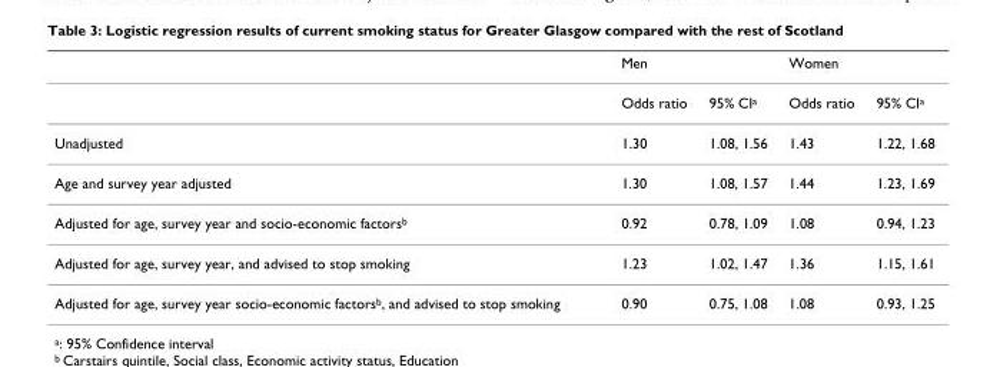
<table><thead><tr><td></td><td>Men</td><td></td><td>Women</td><td></td></tr></thead><tbody><tr><td></td><td>Odds ratio</td><td>95% CI<sup>a</sup></td><td>Odds ratio</td><td>95% CI<sup>a</sup></td></tr><tr><td>Unadjusted</td><td>1.30</td><td>1.08, 1.56</td><td>1.43</td><td>1.22, 1.68</td></tr><tr><td>Age and survey year adjusted</td><td>1.30</td><td>1.08, 1.57</td><td>1.44</td><td>1.23, 1.69</td></tr><tr><td>Adjusted for age, survey year and socio-economic factors<sup>b</sup></td><td>0.92</td><td>0.78, 1.09</td><td>1.08</td><td>0.94, 1.23</td></tr><tr><td>Adjusted for age, survey year, and advised to stop smoking</td><td>1.23</td><td>1.02, 1.47</td><td>1.36</td><td>1.15, 1.61</td></tr><tr><td>Adjusted for age, survey year socio-economic factors<sup>b</sup>, and advised to stop smoking</td><td>0.90</td><td>0.75, 1.08</td><td>1.08</td><td>0.93, 1.25</td></tr></tbody></table>